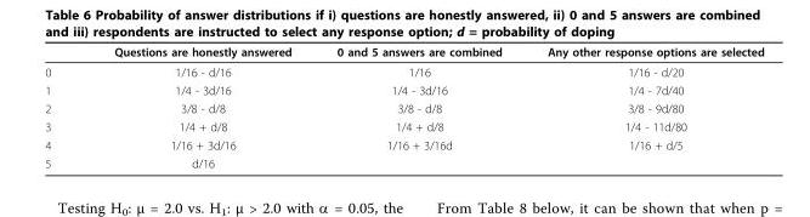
<table><thead><tr><td></td><td>Questions are honestly answered</td><td>0 and 5 answers are combined</td><td>Any other response options are selected</td></tr></thead><tbody><tr><td>0</td><td>1/16 - d/16</td><td>1/16</td><td>1/16 - d/20</td></tr><tr><td>1</td><td>1/4 - 3d/16</td><td>1/4 - 3d/16</td><td>1/4 - 7d/40</td></tr><tr><td>2</td><td>3/8 - d/8</td><td>3/8 - d/8</td><td>3/8 - 9d/80</td></tr><tr><td>3</td><td>1/4 + d/8</td><td>1/4 + d/8</td><td>1/4 - 11d/80</td></tr><tr><td>4</td><td>1/16 + 3d/16</td><td>1/16 + 3/16d</td><td>1/16 + d/5</td></tr><tr><td>5</td><td>d/16</td><td></td><td></td></tr></tbody></table>